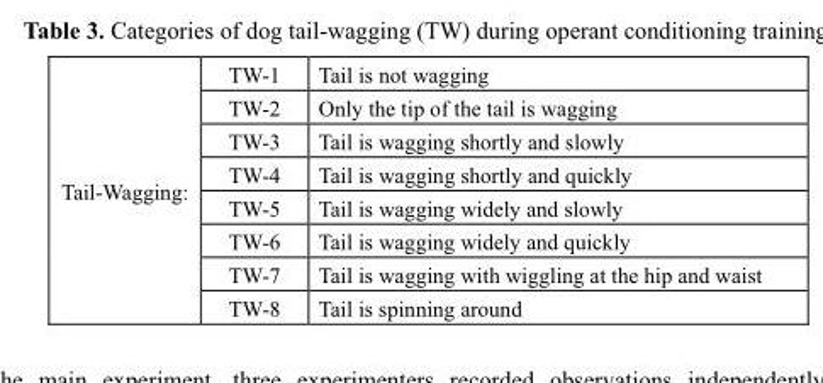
<table><tbody><tr><td rowspan="8">Tail-Wagging:</td><td>TW-1</td><td>Tail is not wagging</td></tr><tr><td>TW-2</td><td>Only the tip of the tail is wagging</td></tr><tr><td>TW-3</td><td>Tail is wagging shortly and slowly</td></tr><tr><td>TW-4</td><td>Tail is wagging shortly and quickly</td></tr><tr><td>TW-5</td><td>Tail is wagging widely and slowly</td></tr><tr><td>TW-6</td><td>Tail is wagging widely and quickly</td></tr><tr><td>TW-7</td><td>Tail is wagging with wiggling at the hip and waist</td></tr><tr><td>TW-8</td><td>Tail is spinning around</td></tr></tbody></table>